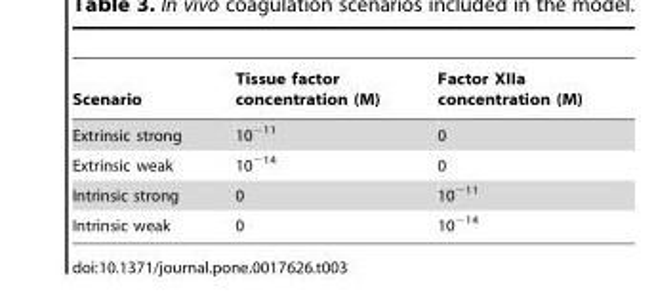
<table><thead><tr><td>Scenario</td><td>Tissue factor concentration (M)</td><td>Factor XIIa concentration (M)</td></tr></thead><tbody><tr><td>Extrinsic strong</td><td>10<sup>−11</sup></td><td>0</td></tr><tr><td>Extrinsic weak</td><td>10<sup>−14</sup></td><td>0</td></tr><tr><td>Intrinsic strong</td><td>0</td><td>10<sup>−11</sup></td></tr><tr><td>Intrinsic weak</td><td>0</td><td>10<sup>−14</sup></td></tr></tbody></table>